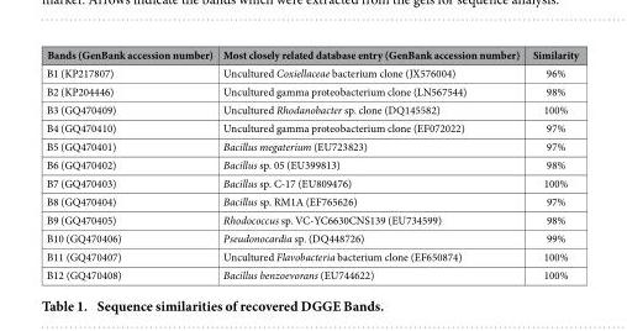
<table><thead><tr><td>Bands (GenBank accession number)</td><td>Most closely related database entry (GenBank accession number)</td><td>Similarity</td></tr></thead><tbody><tr><td>B1 (KP217807)</td><td>Uncultured Coxiellaceae bacterium clone (JX576004)</td><td>96%</td></tr><tr><td>B2 (KP204446)</td><td>Uncultured gamma proteobacterium clone (LN567544)</td><td>98%</td></tr><tr><td>B3 (GQ470409)</td><td>Uncultured Rhodanobacter sp. clone (DQ145582)</td><td>100%</td></tr><tr><td>B4 (GQ470410)</td><td>Uncultured gamma proteobacterium clone (EF072022)</td><td>97%</td></tr><tr><td>B5 (GQ470401)</td><td>Bacillus megaterium (EU723823)</td><td>97%</td></tr><tr><td>B6 (GQ470402)</td><td>Bacillus sp. 05 (EU399813)</td><td>98%</td></tr><tr><td>B7 (GQ470403)</td><td>Bacillus sp. C-17 (EU809476)</td><td>100%</td></tr><tr><td>B8 (GQ470404)</td><td>Bacillus sp. RM1A (EF765626)</td><td>97%</td></tr><tr><td>B9 (GQ470405)</td><td>Rhodococcus sp. VC-YC6630CNS139 (EU734599)</td><td>98%</td></tr><tr><td>B10 (GQ470406)</td><td>Pseudonocardia sp. (DQ448726)</td><td>99%</td></tr><tr><td>B11 (GQ470407)</td><td>Uncultured Flavobacteria bacterium clone (EF650874)</td><td>100%</td></tr><tr><td>B12 (GQ470408)</td><td>Bacillus benzoevorans (EU744622)</td><td>100%</td></tr></tbody></table>